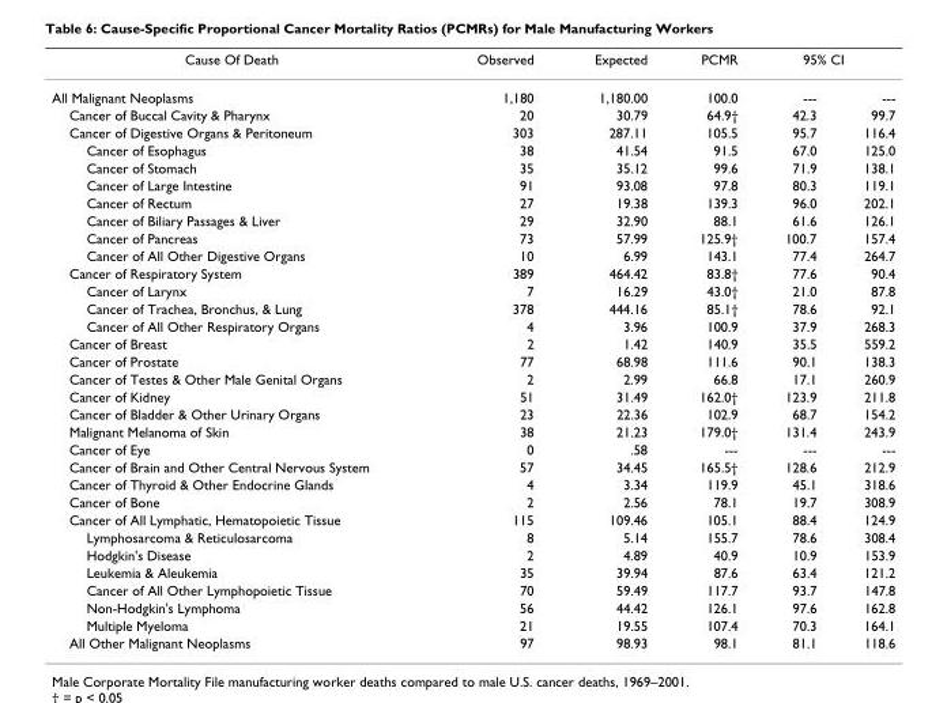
<table><thead><tr><td rowspan="2">Cause Of Death All Malignant Neoplasms</td><td rowspan="2">Observed 1,180</td><td rowspan="2">Expected 1,180.00</td><td rowspan="2">PCMR 100.0</td><td colspan="2">95% CI</td></tr><tr><td>---</td><td>---</td></tr></thead><tbody><tr><td>Cancer of Buccal Cavity &amp; Pharynx</td><td>20</td><td>30.79</td><td>64.9†</td><td>42.3</td><td>99.7</td></tr><tr><td>Cancer of Digestive Organs &amp; Peritoneum</td><td>303</td><td>287.11</td><td>105.5</td><td>95.7</td><td>116.4</td></tr><tr><td>Cancer of Esophagus</td><td>38</td><td>41.54</td><td>91.5</td><td>67.0</td><td>125.0</td></tr><tr><td>Cancer of Stomach</td><td>35</td><td>35.12</td><td>99.6</td><td>71.9</td><td>138.1</td></tr><tr><td>Cancer of Large Intestine</td><td>91</td><td>93.08</td><td>97.8</td><td>80.3</td><td>119.1</td></tr><tr><td>Cancer of Rectum</td><td>27</td><td>19.38</td><td>139.3</td><td>96.0</td><td>202.1</td></tr><tr><td>Cancer of Biliary Passages &amp; Liver</td><td>29</td><td>32.90</td><td>88.1</td><td>61.6</td><td>126.1</td></tr><tr><td>Cancer of Pancreas</td><td>73</td><td>57.99</td><td>125.9†</td><td>100.7</td><td>157.4</td></tr><tr><td>Cancer of All Other Digestive Organs</td><td>10</td><td>6.99</td><td>143.1</td><td>77.4</td><td>264.7</td></tr><tr><td>Cancer of Respiratory System</td><td>389</td><td>464.42</td><td>83.8†</td><td>77.6</td><td>90.4</td></tr><tr><td>Cancer of Larynx</td><td>7</td><td>16.29</td><td>43.0†</td><td>21.0</td><td>87.8</td></tr><tr><td>Cancer of Trachea, Bronchus, &amp; Lung</td><td>378</td><td>444.16</td><td>85.1†</td><td>78.6</td><td>92.1</td></tr><tr><td>Cancer of All Other Respiratory Organs</td><td>4</td><td>3.96</td><td>100.9</td><td>37.9</td><td>268.3</td></tr><tr><td>Cancer of Breast</td><td>2</td><td>1.42</td><td>140.9</td><td>35.5</td><td>559.2</td></tr><tr><td>Cancer of Prostate</td><td>77</td><td>68.98</td><td>111.6</td><td>90.1</td><td>138.3</td></tr><tr><td>Cancer of Testes &amp; Other Male Genital Organs</td><td>2</td><td>2.99</td><td>66.8</td><td>17.1</td><td>260.9</td></tr><tr><td>Cancer of Kidney</td><td>51</td><td>31.49</td><td>162.0†</td><td>123.9</td><td>211.8</td></tr><tr><td>Cancer of Bladder &amp; Other Urinary Organs</td><td>23</td><td>22.36</td><td>102.9</td><td>68.7</td><td>154.2</td></tr><tr><td>Malignant Melanoma of Skin</td><td>38</td><td>21.23</td><td>179.0†</td><td>131.4</td><td>243.9</td></tr><tr><td>Cancer of Eye</td><td>0</td><td>.58</td><td>---</td><td>---</td><td>---</td></tr><tr><td>Cancer of Brain and Other Central Nervous System</td><td>57</td><td>34.45</td><td>165.5†</td><td>128.6</td><td>212.9</td></tr><tr><td>Cancer of Thyroid &amp; Other Endocrine Glands</td><td>4</td><td>3.34</td><td>119.9</td><td>45.1</td><td>318.6</td></tr><tr><td>Cancer of Bone</td><td>2</td><td>2.56</td><td>78.1</td><td>19.7</td><td>308.9</td></tr><tr><td>Cancer of All Lymphatic, Hematopoietic Tissue</td><td>115</td><td>109.46</td><td>105.1</td><td>88.4</td><td>124.9</td></tr><tr><td>Lymphosarcoma &amp; Reticulosarcoma</td><td>8</td><td>5.14</td><td>155.7</td><td>78.6</td><td>308.4</td></tr><tr><td>Hodgkin&#x27;s Disease</td><td>2</td><td>4.89</td><td>40.9</td><td>10.9</td><td>153.9</td></tr><tr><td>Leukemia &amp; Aleukemia</td><td>35</td><td>39.94</td><td>87.6</td><td>63.4</td><td>121.2</td></tr><tr><td>Cancer of All Other Lymphopoietic Tissue</td><td>70</td><td>59.49</td><td>117.7</td><td>93.7</td><td>147.8</td></tr><tr><td>Non-Hodgkin&#x27;s Lymphoma</td><td>56</td><td>44.42</td><td>126.1</td><td>97.6</td><td>162.8</td></tr><tr><td>Multiple Myeloma</td><td>21</td><td>19.55</td><td>107.4</td><td>70.3</td><td>164.1</td></tr><tr><td>All Other Malignant Neoplasms</td><td>97</td><td>98.93</td><td>98.1</td><td>81.1</td><td>118.6</td></tr></tbody></table>